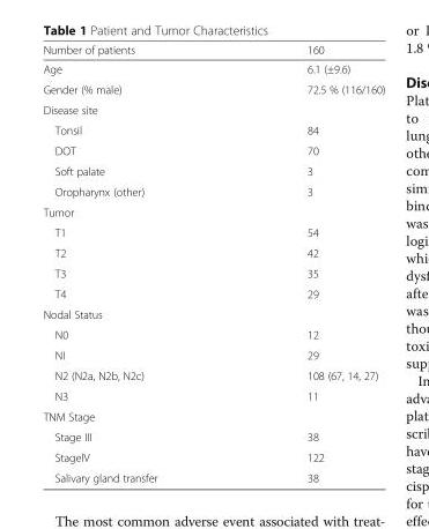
<table><thead><tr><td>Number of patients</td><td>160</td></tr></thead><tbody><tr><td>Age</td><td>6.1 (±9.6)</td></tr><tr><td>Gender (% male)</td><td>72.5 % (116/160)</td></tr><tr><td colspan="2">Disease site</td></tr><tr><td>Tonsil</td><td>84</td></tr><tr><td>DOT</td><td>70</td></tr><tr><td>Soft palate</td><td>3</td></tr><tr><td>Oropharynx (other)</td><td>3</td></tr><tr><td colspan="2">Tumor</td></tr><tr><td>T1</td><td>54</td></tr><tr><td>T2</td><td>42</td></tr><tr><td>T3</td><td>35</td></tr><tr><td>T4</td><td>29</td></tr><tr><td colspan="2">Nodal Status</td></tr><tr><td>N0</td><td>12</td></tr><tr><td>NI</td><td>29</td></tr><tr><td>N2 (N2a, N2b, N2c)</td><td>108 (67, 14, 27)</td></tr><tr><td>N3</td><td>11</td></tr><tr><td colspan="2">TNM Stage</td></tr><tr><td>Stage III</td><td>38</td></tr><tr><td>StagelV</td><td>122</td></tr><tr><td>Salivary gland transfer</td><td>38</td></tr></tbody></table>